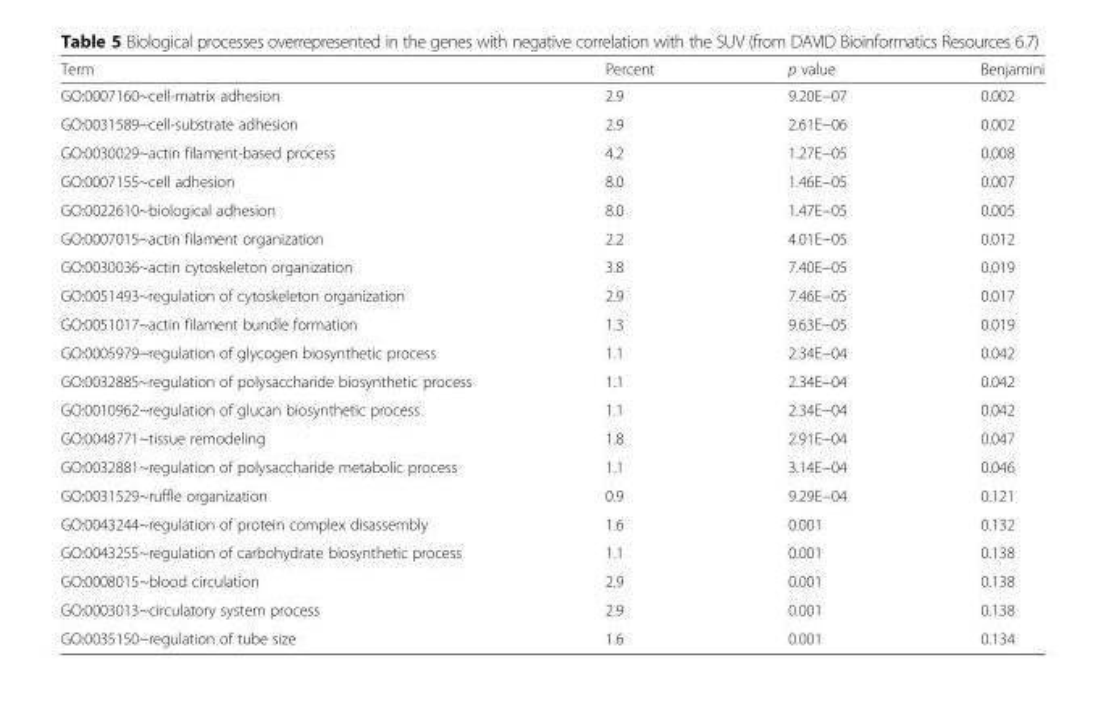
<table><thead><tr><td>Term</td><td>Percent</td><td>p value</td><td>Benjamini</td></tr></thead><tbody><tr><td>GO:0007160~cell-matrix adhesion</td><td>2.9</td><td>9.20E−07</td><td>0.002</td></tr><tr><td>GO:0031589~cell-substrate adhesion</td><td>2.9</td><td>2.61E−06</td><td>0.002</td></tr><tr><td>GO:0030029~actin filament-based process</td><td>4.2</td><td>1.27E−05</td><td>0.008</td></tr><tr><td>GO:0007155~cell adhesion</td><td>8.0</td><td>1.46E−05</td><td>0.007</td></tr><tr><td>GO:0022610~biological adhesion</td><td>8.0</td><td>1.47E−05</td><td>0.005</td></tr><tr><td>GO:0007015~actin filament organization</td><td>2.2</td><td>4.01E−05</td><td>0.012</td></tr><tr><td>GO:0030036~actin cytoskeleton organization</td><td>3.8</td><td>7.40E−05</td><td>0.019</td></tr><tr><td>GO:0051493~regulation of cytoskeleton organization</td><td>2.9</td><td>7.46E−05</td><td>0.017</td></tr><tr><td>GO:0051017~actin filament bundle formation</td><td>1.3</td><td>9.63E−05</td><td>0.019</td></tr><tr><td>GO:0005979~regulation of glycogen biosynthetic process</td><td>1.1</td><td>2.34E−04</td><td>0.042</td></tr><tr><td>GO:0032885~regulation of polysaccharide biosynthetic process</td><td>1.1</td><td>2.34E−04</td><td>0.042</td></tr><tr><td>GO:0010962~regulation of glucan biosynthetic process</td><td>1.1</td><td>2.34E−04</td><td>0.042</td></tr><tr><td>GO:0048771~tissue remodeling</td><td>1.8</td><td>2.91E−04</td><td>0.047</td></tr><tr><td>GO:0032881~regulation of polysaccharide metabolic process</td><td>1.1</td><td>3.14E−04</td><td>0.046</td></tr><tr><td>GO:0031529~ruffle organization</td><td>0.9</td><td>9.29E−04</td><td>0.121</td></tr><tr><td>GO:0043244~regulation of protein complex disassembly</td><td>1.6</td><td>0.001</td><td>0.132</td></tr><tr><td>GO:0043255~regulation of carbohydrate biosynthetic process</td><td>1.1</td><td>0.001</td><td>0.138</td></tr><tr><td>GO:0008015~blood circulation</td><td>2.9</td><td>0.001</td><td>0.138</td></tr><tr><td>GO:0003013~circulatory system process</td><td>2.9</td><td>0.001</td><td>0.138</td></tr><tr><td>GO:0035150~regulation of tube size</td><td>1.6</td><td>0.001</td><td>0.134</td></tr></tbody></table>